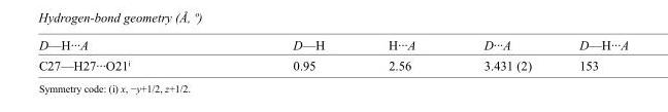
<table><tbody><tr><td>D—H···A</td><td>D—H</td><td>H···A</td><td>D···A</td><td>D—H···A</td></tr><tr><td>C27—H27···O21<sup>i</sup></td><td>0.95</td><td>2.56</td><td>3.431 (2)</td><td>153</td></tr></tbody></table>